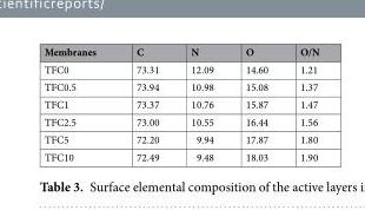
<table><thead><tr><td>Membranes</td><td>C</td><td>N</td><td>O</td><td>O/N</td></tr></thead><tbody><tr><td>TFC0</td><td>73.31</td><td>12.09</td><td>14.60</td><td>1.21</td></tr><tr><td>TFC0.5</td><td>73.94</td><td>10.98</td><td>15.08</td><td>1.37</td></tr><tr><td>TFC1</td><td>73.37</td><td>10.76</td><td>15.87</td><td>1.47</td></tr><tr><td>TFC2.5</td><td>73.00</td><td>10.55</td><td>16.44</td><td>1.56</td></tr><tr><td>TFC5</td><td>72.20</td><td>9.94</td><td>17.87</td><td>1.80</td></tr><tr><td>TFC10</td><td>72.49</td><td>9.48</td><td>18.03</td><td>1.90</td></tr></tbody></table>